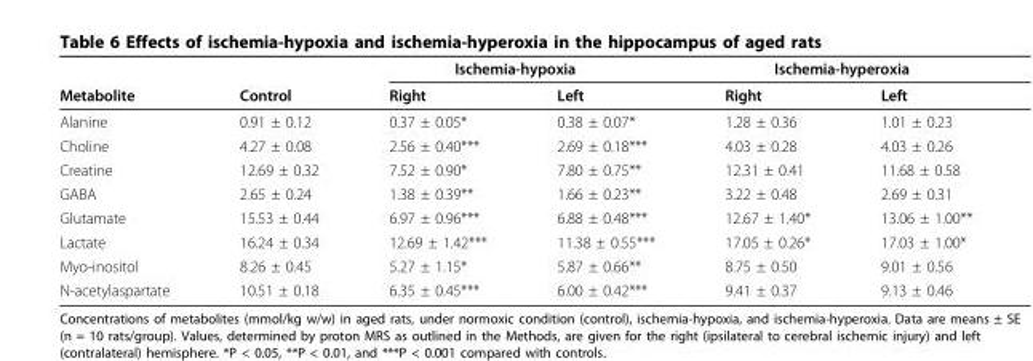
<table><thead><tr><td rowspan="2">Metabolite</td><td rowspan="2">Control</td><td colspan="2">Ischemia-hypoxia</td><td colspan="2">Ischemia-hyperoxia</td></tr><tr><td>Right</td><td>Left</td><td>Right</td><td>Left</td></tr></thead><tbody><tr><td>Alanine</td><td>0.91 ± 0.12</td><td>0.37 ± 0.05*</td><td>0.38 ± 0.07*</td><td>1.28 ± 0.36</td><td>1.01 ± 0.23</td></tr><tr><td>Choline</td><td>4.27 ± 0.08</td><td>2.56 ± 0.40***</td><td>2.69 ± 0.18***</td><td>4.03 ± 0.28</td><td>4.03 ± 0.26</td></tr><tr><td>Creatine</td><td>12.69 ± 0.32</td><td>7.52 ± 0.90*</td><td>7.80 ± 0.75**</td><td>12.31 ± 0.41</td><td>11.68 ± 0.58</td></tr><tr><td>GABA</td><td>2.65 ± 0.24</td><td>1.38 ± 0.39**</td><td>1.66 ± 0.23**</td><td>3.22 ± 0.48</td><td>2.69 ± 0.31</td></tr><tr><td>Glutamate</td><td>15.53 ± 0.44</td><td>6.97 ± 0.96***</td><td>6.88 ± 0.48***</td><td>12.67 ± 1.40*</td><td>13.06 ± 1.00**</td></tr><tr><td>Lactate</td><td>16.24 ± 0.34</td><td>12.69 ± 1.42***</td><td>11.38 ± 0.55***</td><td>17.05 ± 0.26*</td><td>17.03 ± 1.00*</td></tr><tr><td>Myo-inositol</td><td>8.26 ± 0.45</td><td>5.27 ± 1.15*</td><td>5.87 ± 0.66**</td><td>8.75 ± 0.50</td><td>9.01 ± 0.56</td></tr><tr><td>N-acetylaspartate</td><td>10.51 ± 0.18</td><td>6.35 ± 0.45***</td><td>6.00 ± 0.42***</td><td>9.41 ± 0.37</td><td>9.13 ± 0.46</td></tr></tbody></table>